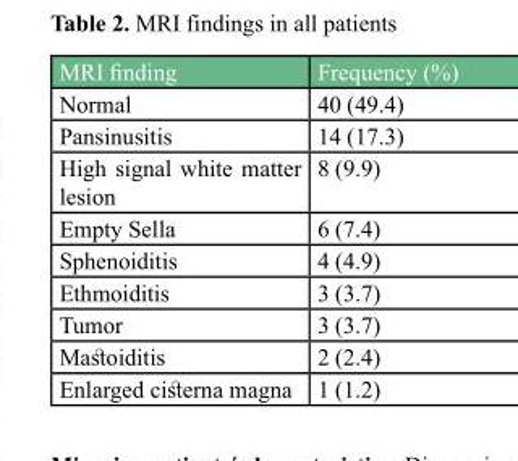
<table><tbody><tr><td>MRI finding</td><td>Frequency (%)</td></tr><tr><td>Normal</td><td>40 (49.4)</td></tr><tr><td>Pansinusitis</td><td>14 (17.3)</td></tr><tr><td>High signal white matter lesion</td><td>8 (9.9)</td></tr><tr><td>Empty Sella</td><td>6 (7.4)</td></tr><tr><td>Sphenoiditis</td><td>4 (4.9)</td></tr><tr><td>Ethmoiditis</td><td>3 (3.7)</td></tr><tr><td>Tumor</td><td>3 (3.7)</td></tr><tr><td>Mastoiditis</td><td>2 (2.4)</td></tr><tr><td>Enlarged cisterna magna</td><td>1 (1.2)</td></tr></tbody></table>